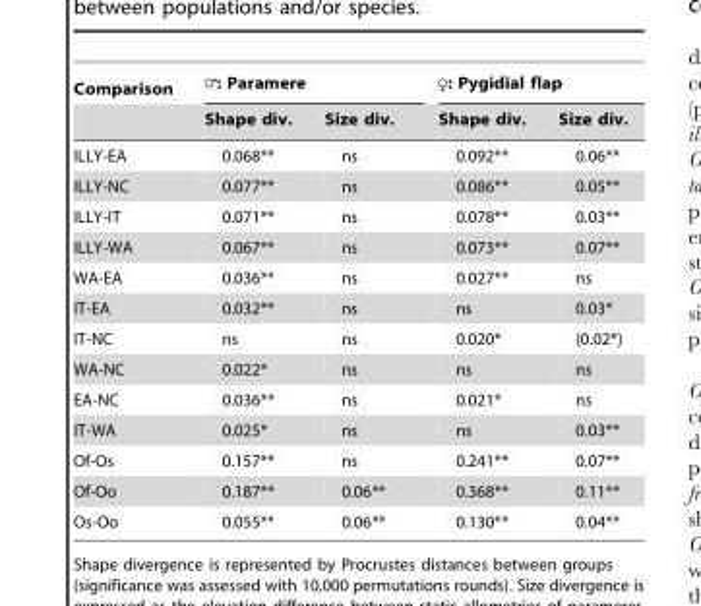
<table><thead><tr><td rowspan="2">Comparison</td><td colspan="2">=: Paramere</td><td colspan="2">♀: Pygidial flap</td></tr><tr><td>Shape div.</td><td>Size div.</td><td>Shape div.</td><td>Size div.</td></tr></thead><tbody><tr><td>ILLY-EA</td><td>0.068**</td><td>ns</td><td>0.092**</td><td>0.06**</td></tr><tr><td>ILLY-NC</td><td>0.077**</td><td>ns</td><td>0.086**</td><td>0.05**</td></tr><tr><td>ILLY-IT</td><td>0.071**</td><td>ns</td><td>0.078**</td><td>0.03**</td></tr><tr><td>ILLY-WA</td><td>0.067**</td><td>ns</td><td>0.073**</td><td>0.07**</td></tr><tr><td>WA-EA</td><td>0.036**</td><td>ns</td><td>0.027**</td><td>ns</td></tr><tr><td>IT-EA</td><td>0.032**</td><td>ns</td><td>ns</td><td>0.03*</td></tr><tr><td>IT-NC</td><td>ns</td><td>ns</td><td>0.020*</td><td>(0.02*)</td></tr><tr><td>WA-NC</td><td>0.022*</td><td>ns</td><td>ns</td><td>ns</td></tr><tr><td>EA-NC</td><td>0.036**</td><td>ns</td><td>0.021*</td><td>ns</td></tr><tr><td>IT-WA</td><td>0.025*</td><td>ns</td><td>ns</td><td>0.03**</td></tr><tr><td>Of-Os</td><td>0.157**</td><td>ns</td><td>0.241**</td><td>0.07**</td></tr><tr><td>Of-Oo</td><td>0.187**</td><td>0.06**</td><td>0.368**</td><td>0.11**</td></tr><tr><td>Os-Oo</td><td>0.055**</td><td>0.06**</td><td>0.130**</td><td>0.04**</td></tr></tbody></table>